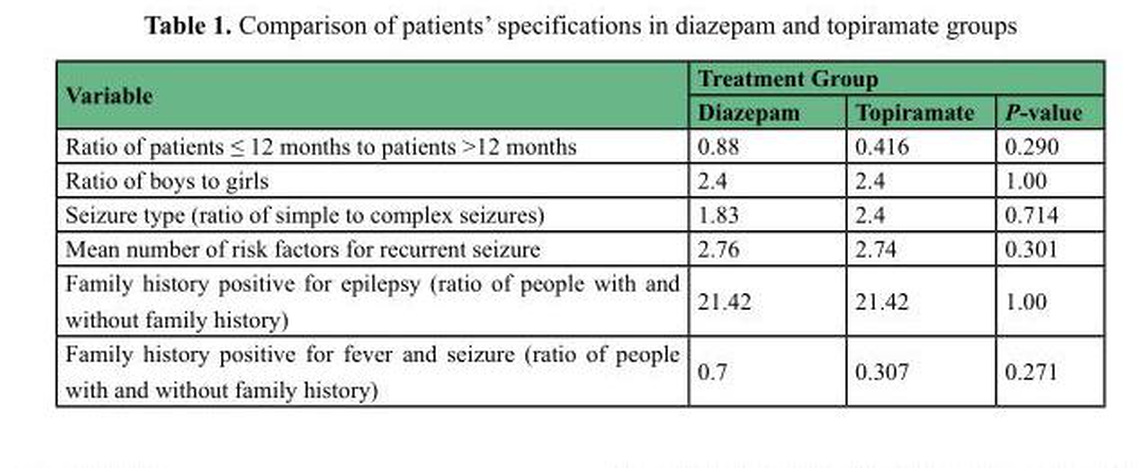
<table><thead><tr><td rowspan="2">Variable</td><td colspan="3">Treatment Group</td></tr><tr><td>Diazepam</td><td>Topiramate</td><td>P-value</td></tr></thead><tbody><tr><td>Ratio of patients ≤ 12 months to patients &gt;12 months</td><td>0.88</td><td>0.416</td><td>0.290</td></tr><tr><td>Ratio of boys to girls</td><td>2.4</td><td>2.4</td><td>1.00</td></tr><tr><td>Seizure type (ratio of simple to complex seizures)</td><td>1.83</td><td>2.4</td><td>0.714</td></tr><tr><td>Mean number of risk factors for recurrent seizure</td><td>2.76</td><td>2.74</td><td>0.301</td></tr><tr><td>Family history positive for epilepsy (ratio of people with and without family history)</td><td>21.42</td><td>21.42</td><td>1.00</td></tr><tr><td>Family history positive for fever and seizure (ratio of people with and without family history)</td><td>0.7</td><td>0.307</td><td>0.271</td></tr></tbody></table>